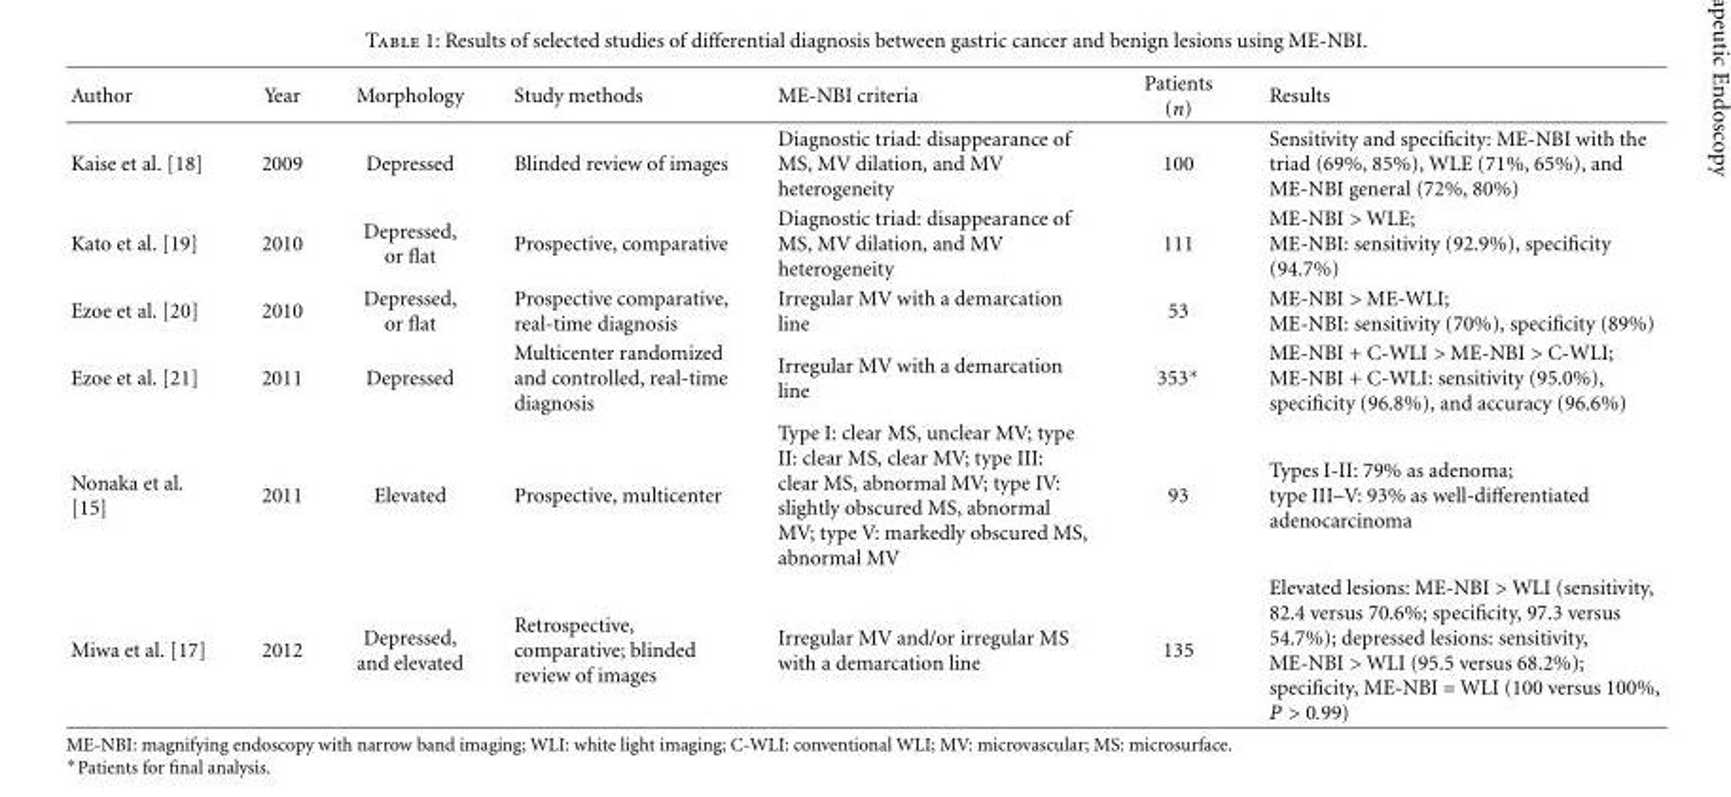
<table><thead><tr><td>Author</td><td>Year</td><td>Morphology</td><td>Study methods</td><td>ME-NBI criteria</td><td>Patients (n)</td><td>Results</td></tr></thead><tbody><tr><td>Kaise et al. [18]</td><td>2009</td><td>Depressed</td><td>Blinded review of images</td><td>Diagnostic triad: disappearance of MS, MV dilation, and MV heterogeneity</td><td>100</td><td>Sensitivity and specificity: ME-NBI with the triad (69%, 85%), WLE (71%, 65%), and ME-NBI general (72%, 80%)</td></tr><tr><td>Kato et al. [19]</td><td>2010</td><td>Depressed, or flat</td><td>Prospective, comparative</td><td>Diagnostic triad: disappearance of MS, MV dilation, and MV heterogeneity</td><td>111</td><td>ME-NBI &gt; WLE; ME-NBI: sensitivity (92.9%), specificity (94.7%)</td></tr><tr><td>Ezoe et al. [20]</td><td>2010</td><td>Depressed, or flat</td><td>Prospective comparative, real-time diagnosis</td><td>Irregular MV with a demarcation line</td><td>53</td><td>ME-NBI &gt; ME-WLI; ME-NBI: sensitivity (70%), specificity (89%)</td></tr><tr><td>Ezoe et al. [21]</td><td>2011</td><td>Depressed</td><td>Multicenter randomized and controlled, real-time diagnosis</td><td>Irregular MV with a demarcation line</td><td>353∗</td><td>ME-NBI + C-WLI &gt; ME-NBI &gt; C-WLI; ME-NBI + C-WLI: sensitivity (95.0%), specificity (96.8%), and accuracy (96.6%)</td></tr><tr><td>Nonaka et al. [15]</td><td>2011</td><td>Elevated</td><td>Prospective, multicenter</td><td>Type I: clear MS, unclear MV; type II: clear MS, clear MV; type III: clear MS, abnormal MV; type IV: slightly obscured MS, abnormal MV; type V: markedly obscured MS, abnormal MV</td><td>93</td><td>Types I-II: 79% as adenoma; type III–V: 93% as well-differentiated adenocarcinoma</td></tr><tr><td>Miwa et al. [17]</td><td>2012</td><td>Depressed, and elevated</td><td>Retrospective, comparative; blinded review of images</td><td>Irregular MV and/or irregular MS with a demarcation line</td><td>135</td><td>Elevated lesions: ME-NBI &gt; WLI (sensitivity, 82.4 versus 70.6%; specificity, 97.3 versus 54.7%); depressed lesions: sensitivity, ME-NBI &gt; WLI (95.5 versus 68.2%); specificity, ME-NBI = WLI (100 versus 100%, P &gt; 0.99)</td></tr></tbody></table>